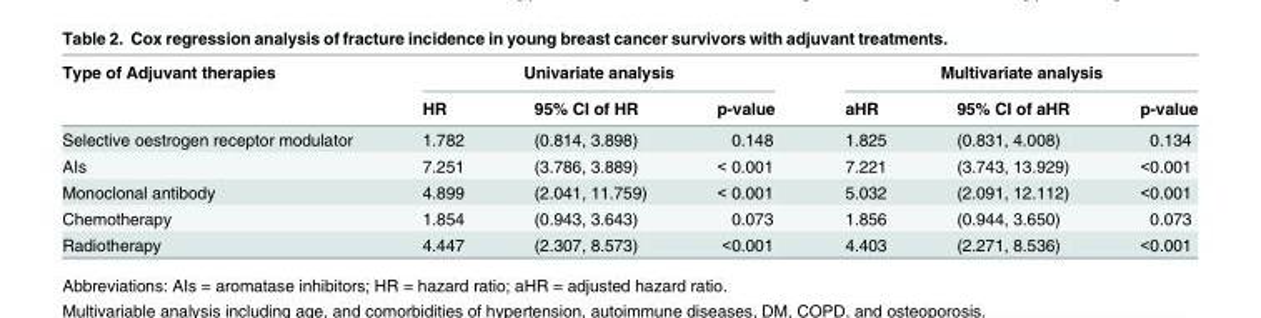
<table><thead><tr><td rowspan="2">Type of Adjuvant therapies</td><td colspan="3">Univariate analysis</td><td colspan="3">Multivariate analysis</td></tr><tr><td>HR</td><td>95% CI of HR</td><td>p-value</td><td>aHR</td><td>95% CI of aHR</td><td>p-value</td></tr></thead><tbody><tr><td>Selective oestrogen receptor modulator</td><td>1.782</td><td>(0.814, 3.898)</td><td>0.148</td><td>1.825</td><td>(0.831, 4.008)</td><td>0.134</td></tr><tr><td>AIs</td><td>7.251</td><td>(3.786, 3.889)</td><td>&lt; 0.001</td><td>7.221</td><td>(3.743, 13.929)</td><td>&lt;0.001</td></tr><tr><td>Monoclonal antibody</td><td>4.899</td><td>(2.041, 11.759)</td><td>&lt; 0.001</td><td>5.032</td><td>(2.091, 12.112)</td><td>&lt;0.001</td></tr><tr><td>Chemotherapy</td><td>1.854</td><td>(0.943, 3.643)</td><td>0.073</td><td>1.856</td><td>(0.944, 3.650)</td><td>0.073</td></tr><tr><td>Radiotherapy</td><td>4.447</td><td>(2.307, 8.573)</td><td>&lt;0.001</td><td>4.403</td><td>(2.271, 8.536)</td><td>&lt;0.001</td></tr></tbody></table>